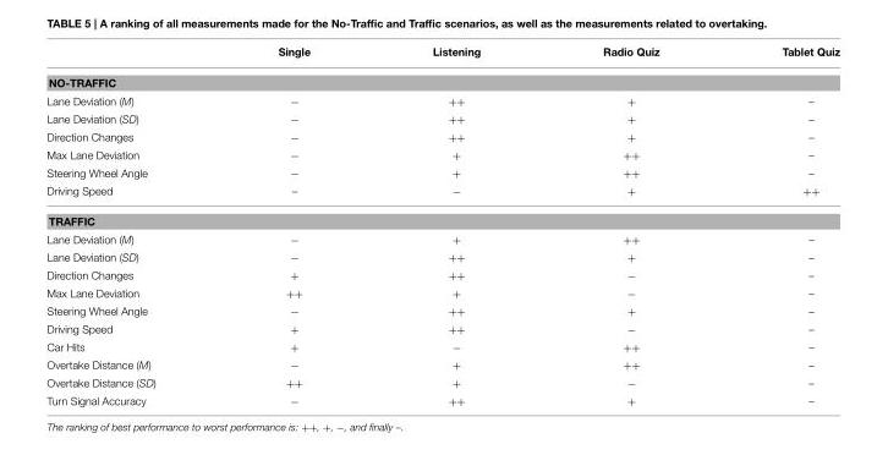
<table><thead><tr><td></td><td>Single</td><td>Listening</td><td>Radio Quiz</td><td>Tablet Quiz</td></tr></thead><tbody><tr><td colspan="5">NO-TRAFFIC</td></tr><tr><td>Lane Deviation (M)</td><td>−</td><td>++</td><td>+</td><td>–</td></tr><tr><td>Lane Deviation (SD)</td><td>−</td><td>++</td><td>+</td><td>–</td></tr><tr><td>Direction Changes</td><td>−</td><td>++</td><td>+</td><td>–</td></tr><tr><td>Max Lane Deviation</td><td>−</td><td>+</td><td>++</td><td>–</td></tr><tr><td>Steering Wheel Angle</td><td>−</td><td>+</td><td>++</td><td>–</td></tr><tr><td>Driving Speed</td><td>–</td><td>−</td><td>+</td><td>++</td></tr><tr><td colspan="5">TRAFFIC</td></tr><tr><td>Lane Deviation (M)</td><td>−</td><td>+</td><td>++</td><td>–</td></tr><tr><td>Lane Deviation (SD)</td><td>−</td><td>++</td><td>+</td><td>–</td></tr><tr><td>Direction Changes</td><td>+</td><td>++</td><td>−</td><td>–</td></tr><tr><td>Max Lane Deviation</td><td>++</td><td>+</td><td>−</td><td>–</td></tr><tr><td>Steering Wheel Angle</td><td>−</td><td>++</td><td>+</td><td>–</td></tr><tr><td>Driving Speed</td><td>+</td><td>++</td><td>−</td><td>–</td></tr><tr><td>Car Hits</td><td>+</td><td>−</td><td>++</td><td>–</td></tr><tr><td>Overtake Distance (M)</td><td>−</td><td>+</td><td>++</td><td>–</td></tr><tr><td>Overtake Distance (SD)</td><td>++</td><td>+</td><td>−</td><td>–</td></tr><tr><td>Turn Signal Accuracy</td><td>−</td><td>++</td><td>+</td><td>–</td></tr></tbody></table>